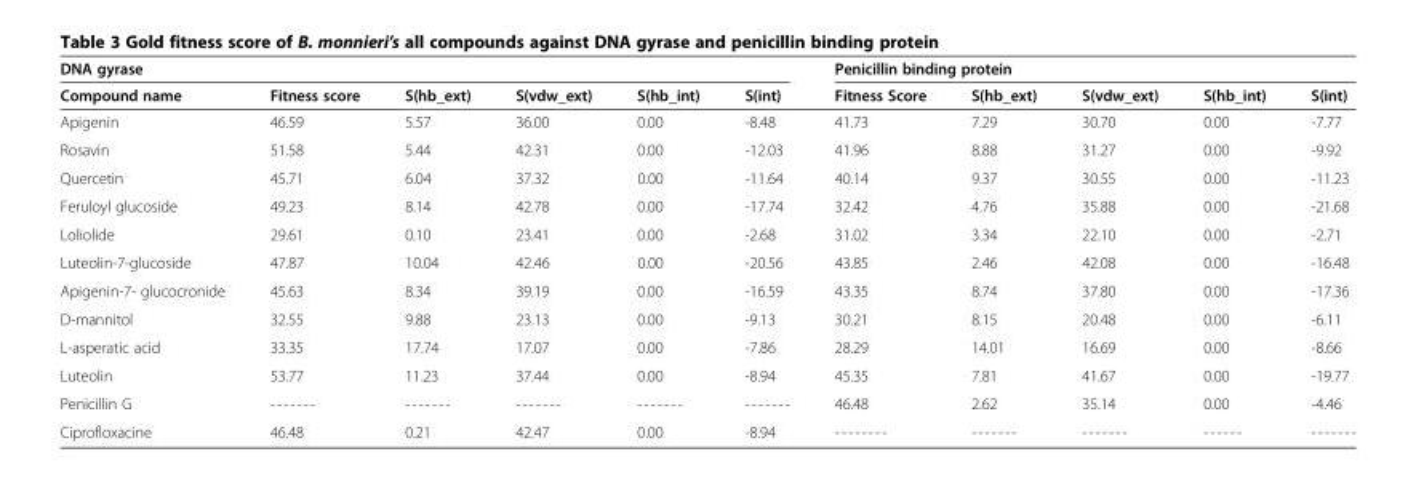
<table><thead><tr><td colspan="6">DNA gyrase</td><td colspan="5">Penicillin binding protein</td></tr><tr><td>Compound name</td><td>Fitness score</td><td>S(hb_ext)</td><td>S(vdw_ext)</td><td>S(hb_int)</td><td>S(int)</td><td>Fitness Score</td><td>S(hb_ext)</td><td>S(vdw_ext)</td><td>S(hb_int)</td><td>S(int)</td></tr></thead><tbody><tr><td>Apigenin</td><td>46.59</td><td>5.57</td><td>36.00</td><td>0.00</td><td>-8.48</td><td>41.73</td><td>7.29</td><td>30.70</td><td>0.00</td><td>-7.77</td></tr><tr><td>Rosavin</td><td>51.58</td><td>5.44</td><td>42.31</td><td>0.00</td><td>-12.03</td><td>41.96</td><td>8.88</td><td>31.27</td><td>0.00</td><td>-9.92</td></tr><tr><td>Quercetin</td><td>45.71</td><td>6.04</td><td>37.32</td><td>0.00</td><td>-11.64</td><td>40.14</td><td>9.37</td><td>30.55</td><td>0.00</td><td>-11.23</td></tr><tr><td>Feruloyl glucoside</td><td>49.23</td><td>8.14</td><td>42.78</td><td>0.00</td><td>-17.74</td><td>32.42</td><td>4.76</td><td>35.88</td><td>0.00</td><td>-21.68</td></tr><tr><td>Loliolide</td><td>29.61</td><td>0.10</td><td>23.41</td><td>0.00</td><td>-2.68</td><td>31.02</td><td>3.34</td><td>22.10</td><td>0.00</td><td>-2.71</td></tr><tr><td>Luteolin-7-glucoside</td><td>47.87</td><td>10.04</td><td>42.46</td><td>0.00</td><td>-20.56</td><td>43.85</td><td>2.46</td><td>42.08</td><td>0.00</td><td>-16.48</td></tr><tr><td>Apigenin-7- glucocronide</td><td>45.63</td><td>8.34</td><td>39.19</td><td>0.00</td><td>-16.59</td><td>43.35</td><td>8.74</td><td>37.80</td><td>0.00</td><td>-17.36</td></tr><tr><td>D-mannitol</td><td>32.55</td><td>9.88</td><td>23.13</td><td>0.00</td><td>-9.13</td><td>30.21</td><td>8.15</td><td>20.48</td><td>0.00</td><td>-6.11</td></tr><tr><td>L-asperatic acid</td><td>33.35</td><td>17.74</td><td>17.07</td><td>0.00</td><td>-7.86</td><td>28.29</td><td>14.01</td><td>16.69</td><td>0.00</td><td>-8.66</td></tr><tr><td>Luteolin</td><td>53.77</td><td>11.23</td><td>37.44</td><td>0.00</td><td>-8.94</td><td>45.35</td><td>7.81</td><td>41.67</td><td>0.00</td><td>-19.77</td></tr><tr><td>Penicillin G</td><td>-------</td><td>-------</td><td>-------</td><td>-------</td><td>-------</td><td>46.48</td><td>2.62</td><td>35.14</td><td>0.00</td><td>-4.46</td></tr><tr><td>Ciprofloxacine</td><td>46.48</td><td>0.21</td><td>42.47</td><td>0.00</td><td>-8.94</td><td>--------</td><td>-------</td><td>-------</td><td>------</td><td>-------</td></tr></tbody></table>